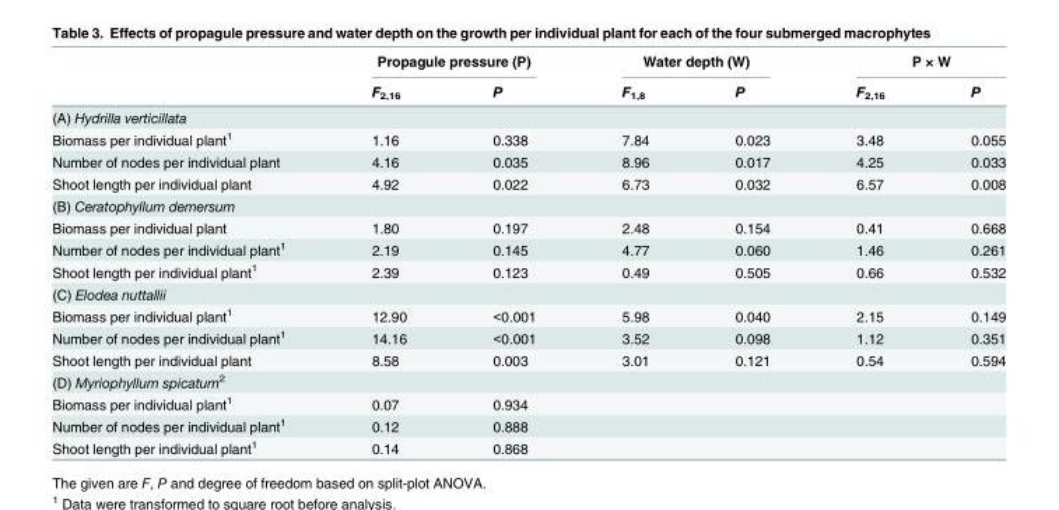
<table><thead><tr><td rowspan="2"></td><td colspan="2">Propagule pressure (P)</td><td colspan="2">Water depth (W)</td><td colspan="2">P × W</td></tr><tr><td>F<sub>2,16</sub></td><td>P</td><td>F<sub>1,8</sub></td><td>P</td><td>F<sub>2,16</sub></td><td>P</td></tr></thead><tbody><tr><td colspan="7">(A) Hydrilla verticillata</td></tr><tr><td>Biomass per individual plant<sup>1</sup></td><td>1.16</td><td>0.338</td><td>7.84</td><td>0.023</td><td>3.48</td><td>0.055</td></tr><tr><td>Number of nodes per individual plant</td><td>4.16</td><td>0.035</td><td>8.96</td><td>0.017</td><td>4.25</td><td>0.033</td></tr><tr><td>Shoot length per individual plant</td><td>4.92</td><td>0.022</td><td>6.73</td><td>0.032</td><td>6.57</td><td>0.008</td></tr><tr><td colspan="7">(B) Ceratophyllum demersum</td></tr><tr><td>Biomass per individual plant</td><td>1.80</td><td>0.197</td><td>2.48</td><td>0.154</td><td>0.41</td><td>0.668</td></tr><tr><td>Number of nodes per individual plant<sup>1</sup></td><td>2.19</td><td>0.145</td><td>4.77</td><td>0.060</td><td>1.46</td><td>0.261</td></tr><tr><td>Shoot length per individual plant<sup>1</sup></td><td>2.39</td><td>0.123</td><td>0.49</td><td>0.505</td><td>0.66</td><td>0.532</td></tr><tr><td colspan="7">(C) Elodea nuttallii</td></tr><tr><td>Biomass per individual plant<sup>1</sup></td><td>12.90</td><td>&lt;0.001</td><td>5.98</td><td>0.040</td><td>2.15</td><td>0.149</td></tr><tr><td>Number of nodes per individual plant<sup>1</sup></td><td>14.16</td><td>&lt;0.001</td><td>3.52</td><td>0.098</td><td>1.12</td><td>0.351</td></tr><tr><td>Shoot length per individual plant</td><td>8.58</td><td>0.003</td><td>3.01</td><td>0.121</td><td>0.54</td><td>0.594</td></tr><tr><td colspan="7">(D) Myriophyllum spicatum<sup>2</sup></td></tr><tr><td>Biomass per individual plant<sup>1</sup></td><td>0.07</td><td>0.934</td><td></td><td></td><td></td><td></td></tr><tr><td>Number of nodes per individual plant<sup>1</sup></td><td>0.12</td><td>0.888</td><td></td><td></td><td></td><td></td></tr><tr><td>Shoot length per individual plant<sup>1</sup></td><td>0.14</td><td>0.868</td><td></td><td></td><td></td><td></td></tr></tbody></table>